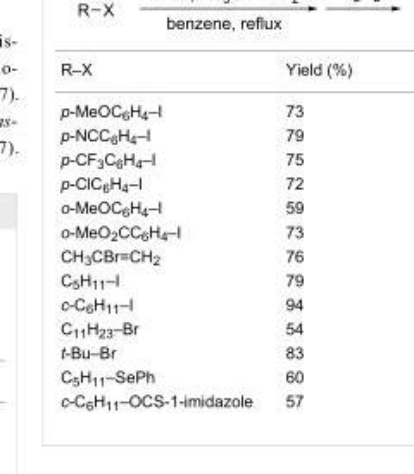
<table><tbody><tr><td>R–X</td><td>Yield (%)</td></tr><tr><td>p-MeOC<sub>6</sub>H<sub>4</sub>–I</td><td>73</td></tr><tr><td>p-NCC<sub>6</sub>H<sub>4</sub>–I</td><td>79</td></tr><tr><td>p-CF<sub>3</sub>C<sub>6</sub>H<sub>4</sub>–I</td><td>75</td></tr><tr><td>p-ClC<sub>6</sub>H<sub>4</sub>–I</td><td>72</td></tr><tr><td>o-MeOC<sub>6</sub>H<sub>4</sub>–I</td><td>59</td></tr><tr><td>o-MeO<sub>2</sub>CC<sub>6</sub>H<sub>4</sub>–I</td><td>73</td></tr><tr><td>CH<sub>3</sub>CBr=CH<sub>2</sub></td><td>76</td></tr><tr><td>C<sub>5</sub>H<sub>11</sub>–I</td><td>79</td></tr><tr><td>c-C<sub>6</sub>H<sub>11</sub>–I</td><td>94</td></tr><tr><td>C<sub>11</sub>H<sub>23</sub>–Br</td><td>54</td></tr><tr><td>t-Bu–Br</td><td>83</td></tr><tr><td>C<sub>5</sub>H<sub>11</sub>–SePh</td><td>60</td></tr><tr><td>c-C<sub>6</sub>H<sub>11</sub>–OCS-1-imidazole</td><td>57</td></tr></tbody></table>